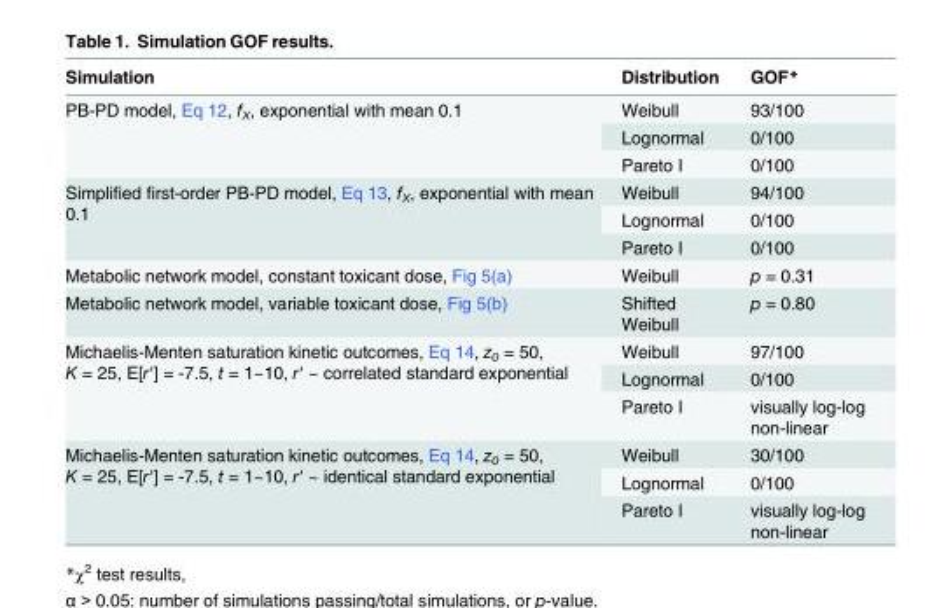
<table><thead><tr><td>Simulation</td><td>Distribution</td><td>GOF*</td></tr></thead><tbody><tr><td rowspan="3">PB-PD model, Eq 12, f<sub>X</sub>, exponential with mean 0.1</td><td>Weibull</td><td>93/100</td></tr><tr><td>Lognormal</td><td>0/100</td></tr><tr><td>Pareto I</td><td>0/100</td></tr><tr><td rowspan="3">Simplified first-order PB-PD model, Eq 13, f<sub>X</sub>, exponential with mean 0.1</td><td>Weibull</td><td>94/100</td></tr><tr><td>Lognormal</td><td>0/100</td></tr><tr><td>Pareto I</td><td>0/100</td></tr><tr><td>Metabolic network model, constant toxicant dose, Fig 5(a)</td><td>Weibull</td><td>p = 0.31</td></tr><tr><td>Metabolic network model, variable toxicant dose, Fig 5(b)</td><td>Shifted Weibull</td><td>p = 0.80</td></tr><tr><td rowspan="3">Michaelis-Menten saturation kinetic outcomes, Eq 14, z<sub>0</sub> = 50, K = 25, E[r&#x27;] = -7.5, t = 1~10, r&#x27; ~ correlated standard exponential</td><td>Weibull</td><td>97/100</td></tr><tr><td>Lognormal</td><td>0/100</td></tr><tr><td>Pareto I</td><td>visually log-log non-linear</td></tr><tr><td rowspan="3">Michaelis-Menten saturation kinetic outcomes, Eq 14, z<sub>0</sub> = 50, K = 25, E[r&#x27;] = -7.5, t = 1~10, r&#x27; ~ identical standard exponential</td><td>Weibull</td><td>30/100</td></tr><tr><td>Lognormal</td><td>0/100</td></tr><tr><td>Pareto I</td><td>visually log-log non-linear</td></tr></tbody></table>